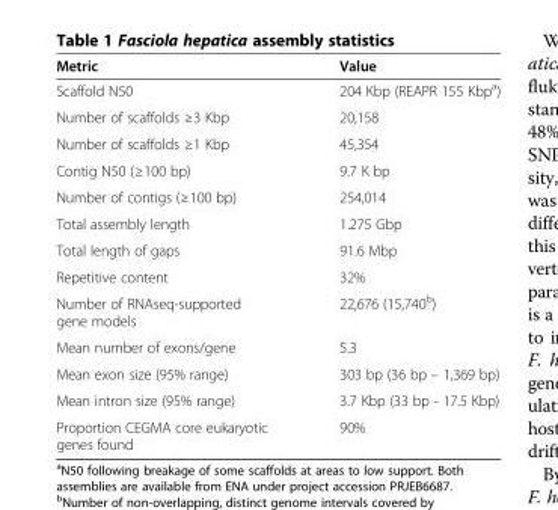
<table><thead><tr><td>Metric</td><td>Value</td></tr></thead><tbody><tr><td>Scaffold N50</td><td>204 Kbp (REAPR 155 Kbp<sup>a</sup>)</td></tr><tr><td>Number of scaffolds ≥3 Kbp</td><td>20,158</td></tr><tr><td>Number of scaffolds ≥1 Kbp</td><td>45,354</td></tr><tr><td>Contig N50 (≥100 bp)</td><td>9.7 K bp</td></tr><tr><td>Number of contigs (≥100 bp)</td><td>254,014</td></tr><tr><td>Total assembly length</td><td>1.275 Gbp</td></tr><tr><td>Total length of gaps</td><td>91.6 Mbp</td></tr><tr><td>Repetitive content</td><td>32%</td></tr><tr><td>Number of RNAseq-supported gene models</td><td>22,676 (15,740<sup>b</sup>)</td></tr><tr><td>Mean number of exons/gene</td><td>5.3</td></tr><tr><td>Mean exon size (95% range)</td><td>303 bp (36 bp – 1,369 bp)</td></tr><tr><td>Mean intron size (95% range)</td><td>3.7 Kbp (33 bp - 17.5 Kbp)</td></tr><tr><td>Proportion CEGMA core eukaryotic genes found</td><td>90%</td></tr></tbody></table>